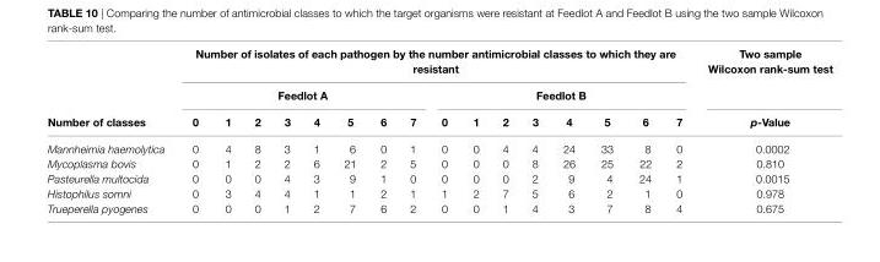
<table><thead><tr><td rowspan="3">number of classes</td><td colspan="16">number of isolates of each pathogen by the number antimicrobial classes to which they are resistant</td><td rowspan="3">Two sample Wilcoxon rank-sum test p-Value</td></tr><tr><td colspan="8">Feedlot a</td><td colspan="8">Feedlot B</td></tr><tr><td>0</td><td>1</td><td>2</td><td>3</td><td>4</td><td>5</td><td>6</td><td>7</td><td>0</td><td>1</td><td>2</td><td>3</td><td>4</td><td>5</td><td>6</td><td>7</td></tr></thead><tbody><tr><td>Mannheimia haemolytica</td><td>0</td><td>4</td><td>8</td><td>3</td><td>1</td><td>6</td><td>0</td><td>1</td><td>0</td><td>0</td><td>4</td><td>4</td><td>24</td><td>33</td><td>8</td><td>0</td><td>0.0002</td></tr><tr><td>Mycoplasma bovis</td><td>0</td><td>1</td><td>2</td><td>2</td><td>6</td><td>21</td><td>2</td><td>5</td><td>0</td><td>0</td><td>0</td><td>8</td><td>26</td><td>25</td><td>22</td><td>2</td><td>0.810</td></tr><tr><td>Pasteurella multocida</td><td>0</td><td>0</td><td>0</td><td>4</td><td>3</td><td>9</td><td>1</td><td>0</td><td>0</td><td>0</td><td>0</td><td>2</td><td>9</td><td>4</td><td>24</td><td>1</td><td>0.0015</td></tr><tr><td>Histophilus somni</td><td>0</td><td>3</td><td>4</td><td>4</td><td>1</td><td>1</td><td>2</td><td>1</td><td>1</td><td>2</td><td>7</td><td>5</td><td>6</td><td>2</td><td>1</td><td>0</td><td>0.978</td></tr><tr><td>Trueperella pyogenes</td><td>0</td><td>0</td><td>0</td><td>1</td><td>2</td><td>7</td><td>6</td><td>2</td><td>0</td><td>0</td><td>1</td><td>4</td><td>3</td><td>7</td><td>8</td><td>4</td><td>0.675</td></tr></tbody></table>